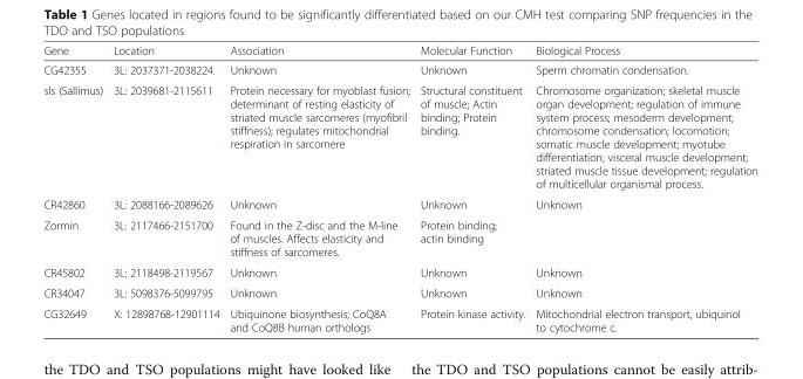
<table><thead><tr><td>Gene</td><td>Location</td><td>Association</td><td>Molecular Function</td><td>Biological Process</td></tr></thead><tbody><tr><td>CG42355</td><td>3L: 2037371-2038224.</td><td>Unknown</td><td>Unknown</td><td>Sperm chromatin condensation.</td></tr><tr><td>sls (Sallimus)</td><td>3L: 2039681-2115611</td><td>Protein necessary for myoblast fusion; determinant of resting elasticity of striated muscle sarcomeres (myofibril stiffness); regulates mitochondrial respiration in sarcomere</td><td>Structural constituent of muscle; Actin binding; Protein binding.</td><td>Chromosome organization; skeletal muscle organ development; regulation of immune system process; mesoderm development; chromosome condensation; locomotion; somatic muscle development; myotube differentiation; visceral muscle development; striated muscle tissue development; regulation of multicellular organismal process.</td></tr><tr><td>CR42860</td><td>3L: 2088166-2089626</td><td>Unknown</td><td>Unknown</td><td>Unknown</td></tr><tr><td>Zormin</td><td>3L: 2117466-2151700</td><td>Found in the Z-disc and the M-line of muscles. Affects elasticity and stiffness of sarcomeres.</td><td>Protein binding; actin binding</td><td></td></tr><tr><td>CR45802</td><td>3L: 2118498-2119567</td><td>Unknown</td><td>Unknown</td><td>Unknown</td></tr><tr><td>CR34047</td><td>3L: 5098376-5099795</td><td>Unknown</td><td>Unknown</td><td>Unknown</td></tr><tr><td>CG32649</td><td>X: 12898768-12901114</td><td>Ubiquinone biosynthesis; CoQ8A and CoQ8B human orthologs</td><td>Protein kinase activity.</td><td>Mitochondrial electron transport, ubiquinol to cytochrome c.</td></tr></tbody></table>